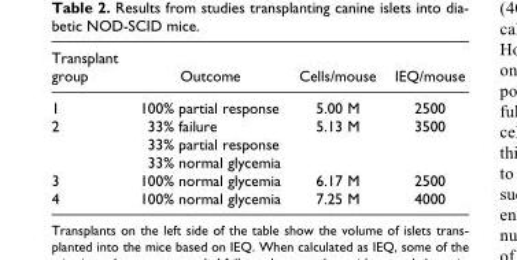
<table><thead><tr><td>Transplant group</td><td>Outcome</td><td>Cells/mouse</td><td>IEQ/mouse</td></tr></thead><tbody><tr><td>1</td><td>100% partial response</td><td>5.00 M</td><td>2500</td></tr><tr><td rowspan="3">2</td><td>33% failure</td><td>5.13 M</td><td>3500</td></tr><tr><td>33% partial response</td><td></td><td></td></tr><tr><td>33% normal glycemia</td><td></td><td></td></tr><tr><td>3</td><td>100% normal glycemia</td><td>6.17 M</td><td>2500</td></tr><tr><td>4</td><td>100% normal glycemia</td><td>7.25 M</td><td>4000</td></tr></tbody></table>